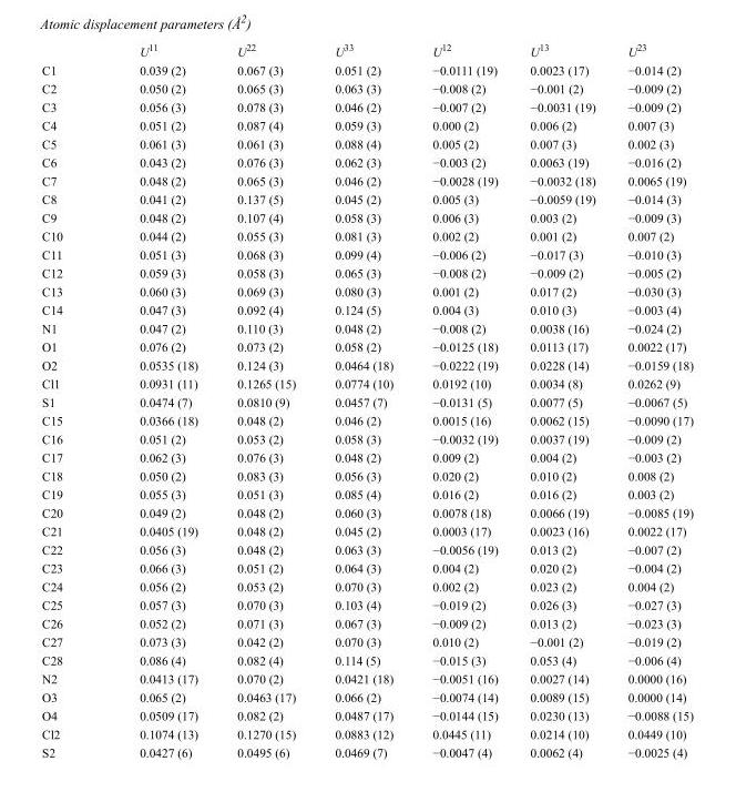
<table><thead><tr><td></td><td>U<sup>11</sup></td><td>U<sup>22</sup></td><td>U<sup>33</sup></td><td>U<sup>12</sup></td><td>U<sup>13</sup></td><td>U<sup>23</sup></td></tr></thead><tbody><tr><td>C1</td><td>0.039 (2)</td><td>0.067 (3)</td><td>0.051 (2)</td><td>−0.0111 (19)</td><td>0.0023 (17)</td><td>−0.014 (2)</td></tr><tr><td>C2</td><td>0.050 (2)</td><td>0.065 (3)</td><td>0.063 (3)</td><td>−0.008 (2)</td><td>−0.001 (2)</td><td>−0.009 (2)</td></tr><tr><td>C3</td><td>0.056 (3)</td><td>0.078 (3)</td><td>0.046 (2)</td><td>−0.007 (2)</td><td>−0.0031 (19)</td><td>−0.009 (2)</td></tr><tr><td>C4</td><td>0.051 (2)</td><td>0.087 (4)</td><td>0.059 (3)</td><td>0.000 (2)</td><td>0.006 (2)</td><td>0.007 (3)</td></tr><tr><td>C5</td><td>0.061 (3)</td><td>0.061 (3)</td><td>0.088 (4)</td><td>0.005 (2)</td><td>0.007 (3)</td><td>0.002 (3)</td></tr><tr><td>C6</td><td>0.043 (2)</td><td>0.076 (3)</td><td>0.062 (3)</td><td>−0.003 (2)</td><td>0.0063 (19)</td><td>−0.016 (2)</td></tr><tr><td>C7</td><td>0.048 (2)</td><td>0.065 (3)</td><td>0.046 (2)</td><td>−0.0028 (19)</td><td>−0.0032 (18)</td><td>0.0065 (19)</td></tr><tr><td>C8</td><td>0.041 (2)</td><td>0.137 (5)</td><td>0.045 (2)</td><td>0.005 (3)</td><td>−0.0059 (19)</td><td>−0.014 (3)</td></tr><tr><td>C9</td><td>0.048 (2)</td><td>0.107 (4)</td><td>0.058 (3)</td><td>0.006 (3)</td><td>0.003 (2)</td><td>−0.009 (3)</td></tr><tr><td>C10</td><td>0.044 (2)</td><td>0.055 (3)</td><td>0.081 (3)</td><td>0.002 (2)</td><td>0.001 (2)</td><td>0.007 (2)</td></tr><tr><td>C11</td><td>0.051 (3)</td><td>0.068 (3)</td><td>0.099 (4)</td><td>−0.006 (2)</td><td>−0.017 (3)</td><td>−0.010 (3)</td></tr><tr><td>C12</td><td>0.059 (3)</td><td>0.058 (3)</td><td>0.065 (3)</td><td>−0.008 (2)</td><td>−0.009 (2)</td><td>−0.005 (2)</td></tr><tr><td>C13</td><td>0.060 (3)</td><td>0.069 (3)</td><td>0.080 (3)</td><td>0.001 (2)</td><td>0.017 (2)</td><td>−0.030 (3)</td></tr><tr><td>C14</td><td>0.047 (3)</td><td>0.092 (4)</td><td>0.124 (5)</td><td>0.004 (3)</td><td>0.010 (3)</td><td>−0.003 (4)</td></tr><tr><td>N1</td><td>0.047 (2)</td><td>0.110 (3)</td><td>0.048 (2)</td><td>−0.008 (2)</td><td>0.0038 (16)</td><td>−0.024 (2)</td></tr><tr><td>O1</td><td>0.076 (2)</td><td>0.073 (2)</td><td>0.058 (2)</td><td>−0.0125 (18)</td><td>0.0113 (17)</td><td>0.0022 (17)</td></tr><tr><td>O2</td><td>0.0535 (18)</td><td>0.124 (3)</td><td>0.0464 (18)</td><td>−0.0222 (19)</td><td>0.0228 (14)</td><td>−0.0159 (18)</td></tr><tr><td>Cl1</td><td>0.0931 (11)</td><td>0.1265 (15)</td><td>0.0774 (10)</td><td>0.0192 (10)</td><td>0.0034 (8)</td><td>0.0262 (9)</td></tr><tr><td>S1</td><td>0.0474 (7)</td><td>0.0810 (9)</td><td>0.0457 (7)</td><td>−0.0131 (5)</td><td>0.0077 (5)</td><td>−0.0067 (5)</td></tr><tr><td>C15</td><td>0.0366 (18)</td><td>0.048 (2)</td><td>0.046 (2)</td><td>0.0015 (16)</td><td>0.0062 (15)</td><td>−0.0090 (17)</td></tr><tr><td>C16</td><td>0.051 (2)</td><td>0.053 (2)</td><td>0.058 (3)</td><td>−0.0032 (19)</td><td>0.0037 (19)</td><td>−0.009 (2)</td></tr><tr><td>C17</td><td>0.062 (3)</td><td>0.076 (3)</td><td>0.048 (2)</td><td>0.009 (2)</td><td>0.004 (2)</td><td>−0.003 (2)</td></tr><tr><td>C18</td><td>0.050 (2)</td><td>0.083 (3)</td><td>0.056 (3)</td><td>0.020 (2)</td><td>0.010 (2)</td><td>0.008 (2)</td></tr><tr><td>C19</td><td>0.055 (3)</td><td>0.051 (3)</td><td>0.085 (4)</td><td>0.016 (2)</td><td>0.016 (2)</td><td>0.003 (2)</td></tr><tr><td>C20</td><td>0.049 (2)</td><td>0.048 (2)</td><td>0.060 (3)</td><td>0.0078 (18)</td><td>0.0066 (19)</td><td>−0.0085 (19)</td></tr><tr><td>C21</td><td>0.0405 (19)</td><td>0.048 (2)</td><td>0.045 (2)</td><td>0.0003 (17)</td><td>0.0023 (16)</td><td>0.0022 (17)</td></tr><tr><td>C22</td><td>0.056 (3)</td><td>0.048 (2)</td><td>0.063 (3)</td><td>−0.0056 (19)</td><td>0.013 (2)</td><td>−0.007 (2)</td></tr><tr><td>C23</td><td>0.066 (3)</td><td>0.051 (2)</td><td>0.064 (3)</td><td>0.004 (2)</td><td>0.020 (2)</td><td>−0.004 (2)</td></tr><tr><td>C24</td><td>0.056 (2)</td><td>0.053 (2)</td><td>0.070 (3)</td><td>0.002 (2)</td><td>0.023 (2)</td><td>0.004 (2)</td></tr><tr><td>C25</td><td>0.057 (3)</td><td>0.070 (3)</td><td>0.103 (4)</td><td>−0.019 (2)</td><td>0.026 (3)</td><td>−0.027 (3)</td></tr><tr><td>C26</td><td>0.052 (2)</td><td>0.071 (3)</td><td>0.067 (3)</td><td>−0.009 (2)</td><td>0.013 (2)</td><td>−0.023 (3)</td></tr><tr><td>C27</td><td>0.073 (3)</td><td>0.042 (2)</td><td>0.070 (3)</td><td>0.010 (2)</td><td>−0.001 (2)</td><td>−0.019 (2)</td></tr><tr><td>C28</td><td>0.086 (4)</td><td>0.082 (4)</td><td>0.114 (5)</td><td>−0.015 (3)</td><td>0.053 (4)</td><td>−0.006 (4)</td></tr><tr><td>N2</td><td>0.0413 (17)</td><td>0.070 (2)</td><td>0.0421 (18)</td><td>−0.0051 (16)</td><td>0.0027 (14)</td><td>0.0000 (16)</td></tr><tr><td>O3</td><td>0.065 (2)</td><td>0.0463 (17)</td><td>0.066 (2)</td><td>−0.0074 (14)</td><td>0.0089 (15)</td><td>0.0000 (14)</td></tr><tr><td>O4</td><td>0.0509 (17)</td><td>0.082 (2)</td><td>0.0487 (17)</td><td>−0.0144 (15)</td><td>0.0230 (13)</td><td>−0.0088 (15)</td></tr><tr><td>Cl2</td><td>0.1074 (13)</td><td>0.1270 (15)</td><td>0.0883 (12)</td><td>0.0445 (11)</td><td>0.0214 (10)</td><td>0.0449 (10)</td></tr><tr><td>S2</td><td>0.0427 (6)</td><td>0.0495 (6)</td><td>0.0469 (7)</td><td>−0.0047 (4)</td><td>0.0062 (4)</td><td>−0.0025 (4)</td></tr></tbody></table>